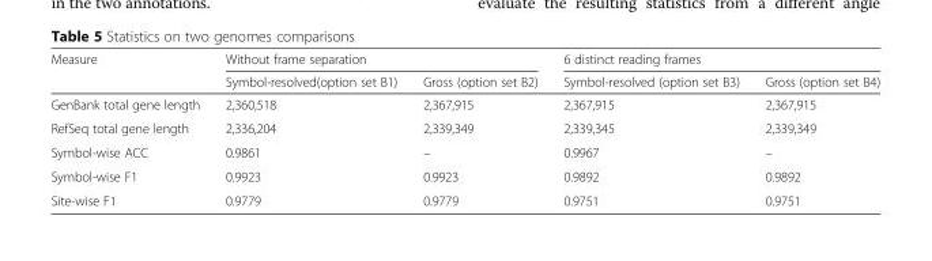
<table><thead><tr><td rowspan="2">Measure</td><td colspan="2">Without frame separation</td><td colspan="2">6 distinct reading frames</td></tr><tr><td>Symbol-resolved(option set B1)</td><td>Gross (option set B2)</td><td>Symbol-resolved (option set B3)</td><td>Gross (option set B4)</td></tr></thead><tbody><tr><td>GenBank total gene length</td><td>2,360,518</td><td>2,367,915</td><td>2,367,915</td><td>2,367,915</td></tr><tr><td>RefSeq total gene length</td><td>2,336,204</td><td>2,339,349</td><td>2,339,345</td><td>2,339,349</td></tr><tr><td>Symbol-wise ACC</td><td>0.9861</td><td>–</td><td>0.9967</td><td>–</td></tr><tr><td>Symbol-wise F1</td><td>0.9923</td><td>0.9923</td><td>0.9892</td><td>0.9892</td></tr><tr><td>Site-wise F1</td><td>0.9779</td><td>0.9779</td><td>0.9751</td><td>0.9751</td></tr></tbody></table>